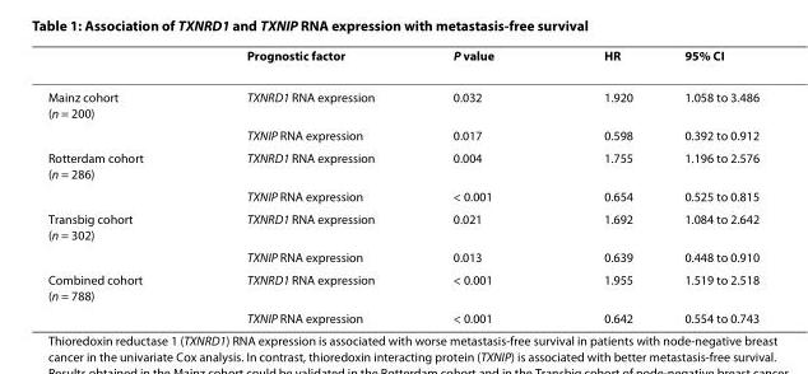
<table><thead><tr><td></td><td>Prognostic factor</td><td>P value</td><td>HR</td><td>95% CI</td></tr></thead><tbody><tr><td rowspan="2">Mainz cohort (n = 200)</td><td>TXNRD1 RNA expression</td><td>0.032</td><td>1.920</td><td>1.058 to 3.486</td></tr><tr><td>TXNIP RNA expression</td><td>0.017</td><td>0.598</td><td>0.392 to 0.912</td></tr><tr><td rowspan="2">Rotterdam cohort (n = 286)</td><td>TXNRD1 RNA expression</td><td>0.004</td><td>1.755</td><td>1.196 to 2.576</td></tr><tr><td>TXNIP RNA expression</td><td>&lt; 0.001</td><td>0.654</td><td>0.525 to 0.815</td></tr><tr><td rowspan="2">Transbig cohort (n = 302)</td><td>TXNRD1 RNA expression</td><td>0.021</td><td>1.692</td><td>1.084 to 2.642</td></tr><tr><td>TXNIP RNA expression</td><td>0.013</td><td>0.639</td><td>0.448 to 0.910</td></tr><tr><td rowspan="2">Combined cohort (n = 788)</td><td>TXNRD1 RNA expression</td><td>&lt; 0.001</td><td>1.955</td><td>1.519 to 2.518</td></tr><tr><td>TXNIP RNA expression</td><td>&lt; 0.001</td><td>0.642</td><td>0.554 to 0.743</td></tr></tbody></table>